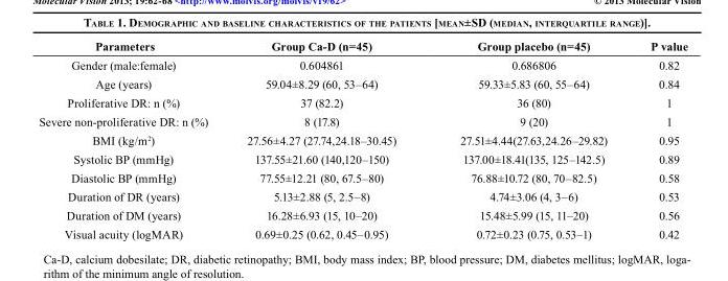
<table><thead><tr><td>Parameters</td><td>Group Ca-D (n=45)</td><td>Group placebo (n=45)</td><td>P value</td></tr></thead><tbody><tr><td>Gender (male:female)</td><td>0.604861</td><td>0.686806</td><td>0.82</td></tr><tr><td>Age (years)</td><td>59.04±8.29 (60, 53–64)</td><td>59.33±5.83 (60, 55–64)</td><td>0.84</td></tr><tr><td>Proliferative DR: n (%)</td><td>37 (82.2)</td><td>36 (80)</td><td>1</td></tr><tr><td>Severe non-proliferative DR: n (%)</td><td>8 (17.8)</td><td>9 (20)</td><td>1</td></tr><tr><td>BMI (kg/m<sup>2</sup>)</td><td>27.56±4.27 (27.74,24.18–30.45)</td><td>27.51±4.44(27.63,24.26–29.82)</td><td>0.95</td></tr><tr><td>Systolic BP (mmHg)</td><td>137.55±21.60 (140,120–150)</td><td>137.00±18.41(135, 125–142.5)</td><td>0.89</td></tr><tr><td>Diastolic BP (mmHg)</td><td>77.55±12.21 (80, 67.5–80)</td><td>76.88±10.72 (80, 70–82.5)</td><td>0.58</td></tr><tr><td>Duration of DR (years)</td><td>5.13±2.88 (5, 2.5–8)</td><td>4.74±3.06 (4, 3–6)</td><td>0.53</td></tr><tr><td>Duration of DM (years)</td><td>16.28±6.93 (15, 10–20)</td><td>15.48±5.99 (15, 11–20)</td><td>0.56</td></tr><tr><td>Visual acuity (logMAR)</td><td>0.69±0.25 (0.62, 0.45–0.95)</td><td>0.72±0.23 (0.75, 0.53–1)</td><td>0.42</td></tr></tbody></table>